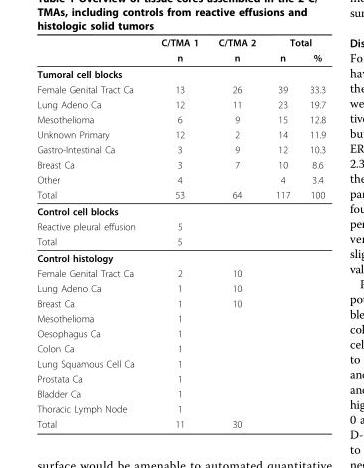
<table><thead><tr><td rowspan="2"></td><td rowspan="2">C/TMA 1 n</td><td rowspan="2">C/TMA 2 n</td><td colspan="2">Total</td></tr><tr><td>n</td><td>%</td></tr></thead><tbody><tr><td colspan="5">Tumoral cell blocks</td></tr><tr><td>Female Genital Tract Ca</td><td>13</td><td>26</td><td>39</td><td>33.3</td></tr><tr><td>Lung Adeno Ca</td><td>12</td><td>11</td><td>23</td><td>19.7</td></tr><tr><td>Mesothelioma</td><td>6</td><td>9</td><td>15</td><td>12.8</td></tr><tr><td>Unknown Primary</td><td>12</td><td>2</td><td>14</td><td>11.9</td></tr><tr><td>Gastro-Intestinal Ca</td><td>3</td><td>9</td><td>12</td><td>10.3</td></tr><tr><td>Breast Ca</td><td>3</td><td>7</td><td>10</td><td>8.6</td></tr><tr><td>Other</td><td>4</td><td></td><td>4</td><td>3.4</td></tr><tr><td>Total</td><td>53</td><td>64</td><td>117</td><td>100</td></tr><tr><td colspan="5">Control cell blocks</td></tr><tr><td>Reactive pleural effusion</td><td>5</td><td></td><td></td><td></td></tr><tr><td>Total</td><td>5</td><td></td><td></td><td></td></tr><tr><td colspan="5">Control histology</td></tr><tr><td>Female Genital Tract Ca</td><td>2</td><td>10</td><td></td><td></td></tr><tr><td>Lung Adeno Ca</td><td>1</td><td>10</td><td></td><td></td></tr><tr><td>Breast Ca</td><td>1</td><td>10</td><td></td><td></td></tr><tr><td>Mesothelioma</td><td>1</td><td></td><td></td><td></td></tr><tr><td>Oesophagus Ca</td><td>1</td><td></td><td></td><td></td></tr><tr><td>Colon Ca</td><td>1</td><td></td><td></td><td></td></tr><tr><td>Lung Squamous Cell Ca</td><td>1</td><td></td><td></td><td></td></tr><tr><td>Prostata Ca</td><td>1</td><td></td><td></td><td></td></tr><tr><td>Bladder Ca</td><td>1</td><td></td><td></td><td></td></tr><tr><td>Thoracic Lymph Node</td><td>1</td><td></td><td></td><td></td></tr><tr><td>Total</td><td>11</td><td>30</td><td></td><td></td></tr></tbody></table>